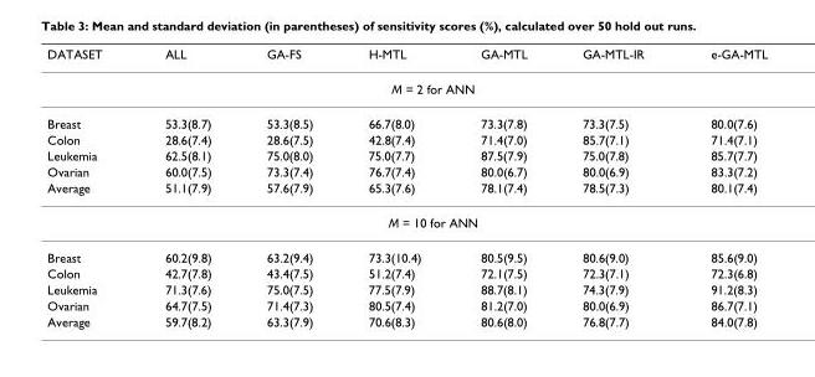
<table><thead><tr><td>DATASET</td><td>ALL</td><td>GA-FS</td><td>H-MTL</td><td>GA-MTL</td><td>GA-MTL-IR</td><td>e-GA-MTL</td></tr></thead><tbody><tr><td colspan="7">M = 2 for ANN</td></tr><tr><td>Breast</td><td>53.3(8.7)</td><td>53.3(8.5)</td><td>66.7(8.0)</td><td>73.3(7.8)</td><td>73.3(7.5)</td><td>80.0(7.6)</td></tr><tr><td>Colon</td><td>28.6(7.4)</td><td>28.6(7.5)</td><td>42.8(7.4)</td><td>71.4(7.0)</td><td>85.7(7.1)</td><td>71.4(7.1)</td></tr><tr><td>Leukemia</td><td>62.5(8.1)</td><td>75.0(8.0)</td><td>75.0(7.7)</td><td>87.5(7.9)</td><td>75.0(7.8)</td><td>85.7(7.7)</td></tr><tr><td>Ovarian</td><td>60.0(7.5)</td><td>73.3(7.4)</td><td>76.7(7.4)</td><td>80.0(6.7)</td><td>80.0(6.9)</td><td>83.3(7.2)</td></tr><tr><td>Average</td><td>51.1(7.9)</td><td>57.6(7.9)</td><td>65.3(7.6)</td><td>78.1(7.4)</td><td>78.5(7.3)</td><td>80.1(7.4)</td></tr><tr><td colspan="7">M = 10 for ANN</td></tr><tr><td>Breast</td><td>60.2(9.8)</td><td>63.2(9.4)</td><td>73.3(10.4)</td><td>80.5(9.5)</td><td>80.6(9.0)</td><td>85.6(9.0)</td></tr><tr><td>Colon</td><td>42.7(7.8)</td><td>43.4(7.5)</td><td>51.2(7.4)</td><td>72.1(7.5)</td><td>72.3(7.1)</td><td>72.3(6.8)</td></tr><tr><td>Leukemia</td><td>71.3(7.6)</td><td>75.0(7.5)</td><td>77.5(7.9)</td><td>88.7(8.1)</td><td>74.3(7.9)</td><td>91.2(8.3)</td></tr><tr><td>Ovarian</td><td>64.7(7.5)</td><td>71.4(7.3)</td><td>80.5(7.4)</td><td>81.2(7.0)</td><td>80.0(6.9)</td><td>86.7(7.1)</td></tr><tr><td>Average</td><td>59.7(8.2)</td><td>63.3(7.9)</td><td>70.6(8.3)</td><td>80.6(8.0)</td><td>76.8(7.7)</td><td>84.0(7.8)</td></tr></tbody></table>